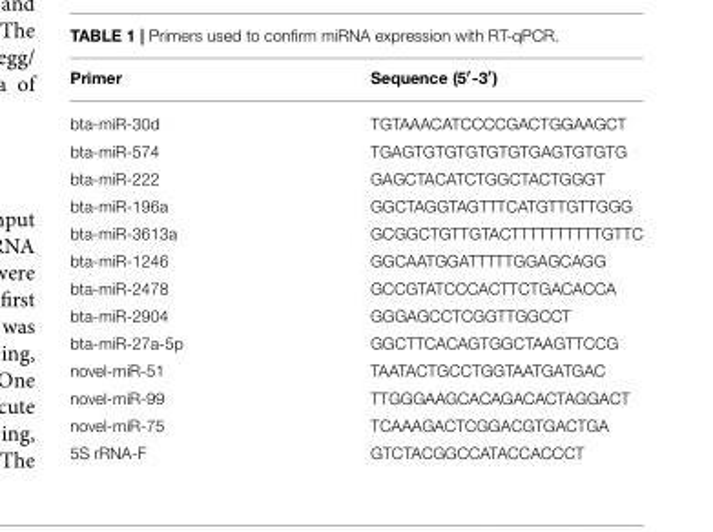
<table><thead><tr><td>Primer</td><td>Sequence (5′-3′)</td></tr></thead><tbody><tr><td>bta-miR-30d</td><td>TGTAAACATCCCCGACTGGAAGCT</td></tr><tr><td>bta-miR-574</td><td>TGAGTGTGTGTGTGTGAGTGTGTG</td></tr><tr><td>bta-miR-222</td><td>GAGCTACATCTGGCTACTGGGT</td></tr><tr><td>bta-miR-196a</td><td>GGCTAGGTAGTTTCATGTTGTTGGG</td></tr><tr><td>bta-miR-3613a</td><td>GCGGCTGTTGTACTTTTTTTTTTGTTC</td></tr><tr><td>bta-miR-1246</td><td>GGCAATGGATTTTTGGAGCAGG</td></tr><tr><td>bta-miR-2478</td><td>GCCGTATCCCACTTCTGACACCA</td></tr><tr><td>bta-miR-2904</td><td>GGGAGCCTCGGTTGGCCT</td></tr><tr><td>bta-miR-27a-5p</td><td>GGCTTCACAGTGGCTAAGTTCCG</td></tr><tr><td>novel-miR-51</td><td>TAATACTGCCTGGTAATGATGAC</td></tr><tr><td>novel-miR-99</td><td>TTGGGAAGCACAGACACTAGGACT</td></tr><tr><td>novel-miR-75</td><td>TCAAAGACTCGGACGTGACTGA</td></tr><tr><td>5S rRNA-F</td><td>GTCTACGGCCATACCACCCT</td></tr></tbody></table>